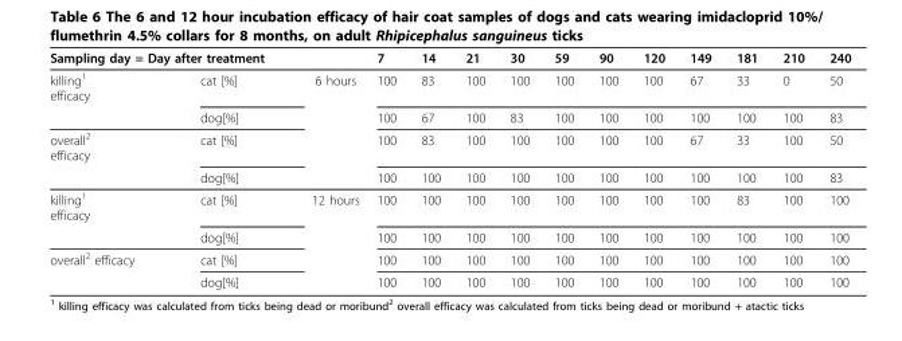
<table><thead><tr><td colspan="2">Sampling day = Day after treatment</td><td rowspan="2">6 hours</td><td rowspan="2">7 100</td><td rowspan="2">14 83</td><td rowspan="2">21 100</td><td rowspan="2">30 100</td><td rowspan="2">59 100</td><td rowspan="2">90 100</td><td rowspan="2">120 100</td><td rowspan="2">149 67</td><td rowspan="2">181 33</td><td rowspan="2">210 0</td><td rowspan="2">240 50</td></tr><tr><td>killing1 efficacy</td><td>cat [%]</td></tr></thead><tbody><tr><td></td><td>dog[%]</td><td></td><td>100</td><td>67</td><td>100</td><td>83</td><td>100</td><td>100</td><td>100</td><td>100</td><td>100</td><td>100</td><td>83</td></tr><tr><td rowspan="2">overall2 efficacy</td><td>cat [%]</td><td></td><td>100</td><td>83</td><td>100</td><td>100</td><td>100</td><td>100</td><td>100</td><td>67</td><td>33</td><td>100</td><td>50</td></tr><tr><td>dog[%]</td><td></td><td>100</td><td>100</td><td>100</td><td>100</td><td>100</td><td>100</td><td>100</td><td>100</td><td>100</td><td>100</td><td>83</td></tr><tr><td rowspan="2">killing1 efficacy</td><td>cat [%]</td><td>12 hours</td><td>100</td><td>100</td><td>100</td><td>100</td><td>100</td><td>100</td><td>100</td><td>100</td><td>83</td><td>100</td><td>100</td></tr><tr><td>dog[%]</td><td></td><td>100</td><td>100</td><td>100</td><td>100</td><td>100</td><td>100</td><td>100</td><td>100</td><td>100</td><td>100</td><td>100</td></tr><tr><td rowspan="2">overall2 efficacy</td><td>cat [%]</td><td></td><td>100</td><td>100</td><td>100</td><td>100</td><td>100</td><td>100</td><td>100</td><td>100</td><td>100</td><td>100</td><td>100</td></tr><tr><td>dog[%]</td><td></td><td>100</td><td>100</td><td>100</td><td>100</td><td>100</td><td>100</td><td>100</td><td>100</td><td>100</td><td>100</td><td>100</td></tr></tbody></table>